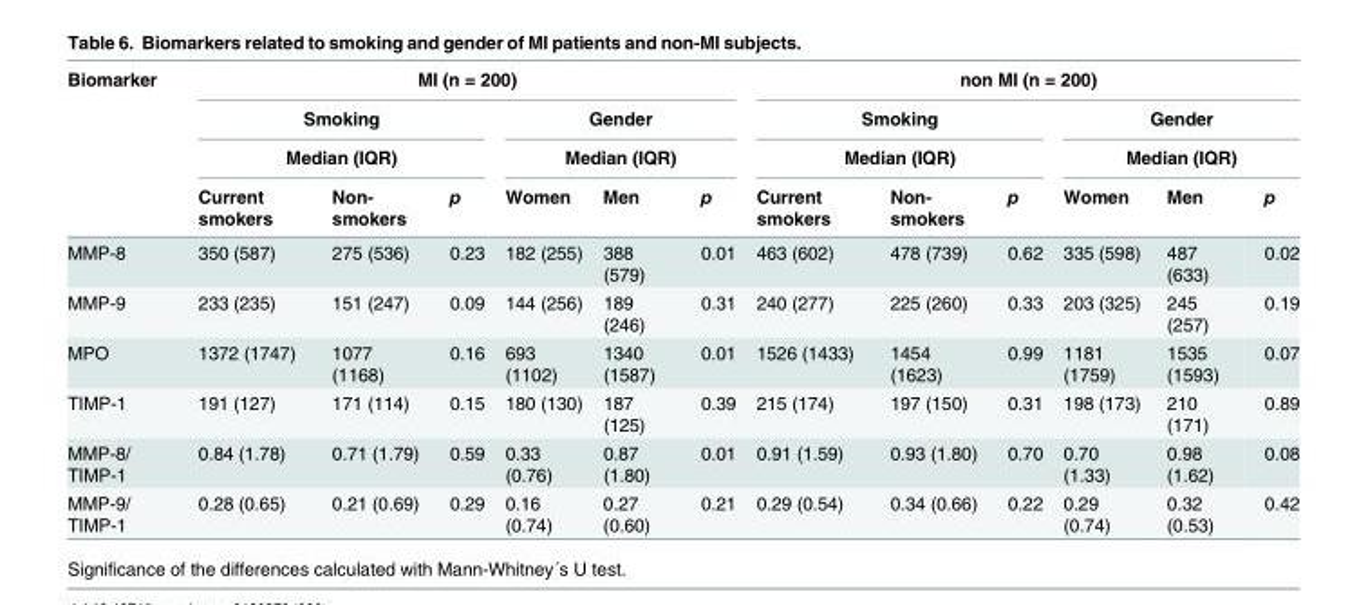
<table><thead><tr><td rowspan="4">Biomarker</td><td colspan="6">MI (n = 200)</td><td colspan="6">non MI (n = 200)</td></tr><tr><td rowspan="2" colspan="3">Smoking Median (IQR)</td><td rowspan="2" colspan="3">Gender Median (IQR)</td><td rowspan="2" colspan="3">Smoking Median (IQR)</td><td rowspan="2" colspan="3">Gender Median (IQR)</td></tr><tr></tr><tr><td>Current smokers</td><td>Non- smokers</td><td>p</td><td>Women</td><td>Men</td><td>p</td><td>Current smokers</td><td>Non- smokers</td><td>p</td><td>Women</td><td>Men</td><td>p</td></tr></thead><tbody><tr><td>MMP-8</td><td>350 (587)</td><td>275 (536)</td><td>0.23</td><td>182 (255)</td><td>388 (579)</td><td>0.01</td><td>463 (602)</td><td>478 (739)</td><td>0.62</td><td>335 (598)</td><td>487 (633)</td><td>0.02</td></tr><tr><td>MMP-9</td><td>233 (235)</td><td>151 (247)</td><td>0.09</td><td>144 (256)</td><td>189 (246)</td><td>0.31</td><td>240 (277)</td><td>225 (260)</td><td>0.33</td><td>203 (325)</td><td>245 (257)</td><td>0.19</td></tr><tr><td>MPO</td><td>1372 (1747)</td><td>1077 (1168)</td><td>0.16</td><td>693 (1102)</td><td>1340 (1587)</td><td>0.01</td><td>1526 (1433)</td><td>1454 (1623)</td><td>0.99</td><td>1181 (1759)</td><td>1535 (1593)</td><td>0.07</td></tr><tr><td>TIMP-1</td><td>191 (127)</td><td>171 (114)</td><td>0.15</td><td>180 (130)</td><td>187 (125)</td><td>0.39</td><td>215 (174)</td><td>197 (150)</td><td>0.31</td><td>198 (173)</td><td>210 (171)</td><td>0.89</td></tr><tr><td>MMP-8/ TIMP-1</td><td>0.84 (1.78)</td><td>0.71 (1.79)</td><td>0.59</td><td>0.33 (0.76)</td><td>0.87 (1.80)</td><td>0.01</td><td>0.91 (1.59)</td><td>0.93 (1.80)</td><td>0.70</td><td>0.70 (1.33)</td><td>0.98 (1.62)</td><td>0.08</td></tr><tr><td>MMP-9/ TIMP-1</td><td>0.28 (0.65)</td><td>0.21 (0.69)</td><td>0.29</td><td>0.16 (0.74)</td><td>0.27 (0.60)</td><td>0.21</td><td>0.29 (0.54)</td><td>0.34 (0.66)</td><td>0.22</td><td>0.29 (0.74)</td><td>0.32 (0.53)</td><td>0.42</td></tr></tbody></table>